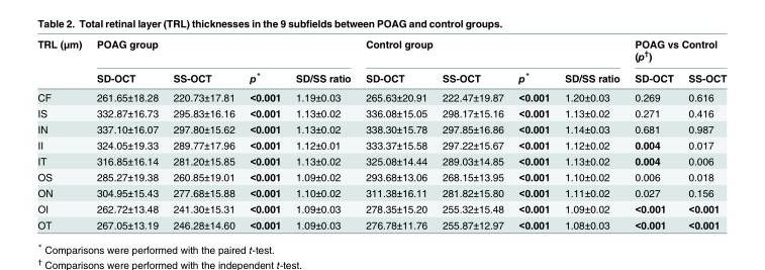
<table><thead><tr><td rowspan="2">TRL (μm)</td><td colspan="4">POAG group</td><td colspan="4">Control group</td><td colspan="2">POAG vs Control (p<sup>†</sup>)</td></tr><tr><td>SD-OCT</td><td>SS-OCT</td><td>p*</td><td>SD/SS ratio</td><td>SD-OCT</td><td>SS-OCT</td><td>p*</td><td>SD/SS ratio</td><td>SD-OCT</td><td>SS-OCT</td></tr></thead><tbody><tr><td>CF</td><td>261.65±18.28</td><td>220.73±17.81</td><td>&lt;0.001</td><td>1.19±0.03</td><td>265.63±20.91</td><td>222.47±19.87</td><td>&lt;0.001</td><td>1.20±0.03</td><td>0.269</td><td>0.616</td></tr><tr><td>IS</td><td>332.87±16.73</td><td>295.83±16.16</td><td>&lt;0.001</td><td>1.13±0.02</td><td>336.08±15.05</td><td>298.17±15.16</td><td>&lt;0.001</td><td>1.13±0.02</td><td>0.271</td><td>0.416</td></tr><tr><td>IN</td><td>337.10±16.07</td><td>297.80±15.62</td><td>&lt;0.001</td><td>1.13±0.02</td><td>338.30±15.78</td><td>297.85±16.86</td><td>&lt;0.001</td><td>1.14±0.03</td><td>0.681</td><td>0.987</td></tr><tr><td>II</td><td>324.05±19.33</td><td>289.77±17.96</td><td>&lt;0.001</td><td>1.12±0.01</td><td>333.37±15.58</td><td>297.22±15.67</td><td>&lt;0.001</td><td>1.12±0.02</td><td>0.004</td><td>0.017</td></tr><tr><td>IT</td><td>316.85±16.14</td><td>281.20±15.85</td><td>&lt;0.001</td><td>1.13±0.02</td><td>325.08±14.44</td><td>289.03±14.85</td><td>&lt;0.001</td><td>1.13±0.02</td><td>0.004</td><td>0.006</td></tr><tr><td>OS</td><td>285.27±19.38</td><td>260.85±19.01</td><td>&lt;0.001</td><td>1.09±0.02</td><td>293.68±13.06</td><td>268.15±13.95</td><td>&lt;0.001</td><td>1.10±0.02</td><td>0.006</td><td>0.018</td></tr><tr><td>ON</td><td>304.95±15.43</td><td>277.68±15.88</td><td>&lt;0.001</td><td>1.10±0.02</td><td>311.38±16.11</td><td>281.82±15.80</td><td>&lt;0.001</td><td>1.11±0.02</td><td>0.027</td><td>0.156</td></tr><tr><td>OI</td><td>262.72±13.48</td><td>241.30±15.31</td><td>&lt;0.001</td><td>1.09±0.03</td><td>278.35±15.20</td><td>255.32±15.48</td><td>&lt;0.001</td><td>1.09±0.02</td><td>&lt;0.001</td><td>&lt;0.001</td></tr><tr><td>OT</td><td>267.05±13.19</td><td>246.28±14.60</td><td>&lt;0.001</td><td>1.09±0.03</td><td>276.78±11.76</td><td>255.87±12.97</td><td>&lt;0.001</td><td>1.08±0.03</td><td>&lt;0.001</td><td>&lt;0.001</td></tr></tbody></table>